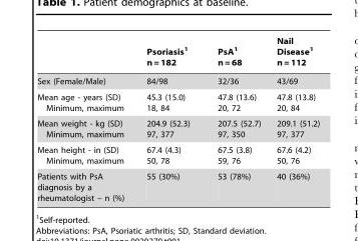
<table><thead><tr><td></td><td>Psoriasis<sup>1</sup> n = 182</td><td>PsA<sup>1</sup> n = 68</td><td>Nail Disease<sup>1</sup> n = 112</td></tr></thead><tbody><tr><td>Sex (Female/Male)</td><td>84/98</td><td>32/36</td><td>43/69</td></tr><tr><td>Mean age - years (SD) Minimum, maximum</td><td>45.3 (15.0) 18, 84</td><td>47.8 (13.6) 20, 72</td><td>47.8 (13.8) 20, 84</td></tr><tr><td>Mean weight - kg (SD) Minimum, maximum</td><td>204.9 (52.3) 97, 377</td><td>207.5 (52.7) 97, 350</td><td>209.1 (51.2) 97, 377</td></tr><tr><td>Mean height - in (SD) Minimum, maximum</td><td>67.4 (4.3) 50, 78</td><td>67.5 (3.8) 59, 76</td><td>67.6 (4.2) 50, 76</td></tr><tr><td>Patients with PsA diagnosis by a rheumatologist – n (%)</td><td>55 (30%)</td><td>53 (78%)</td><td>40 (36%)</td></tr></tbody></table>